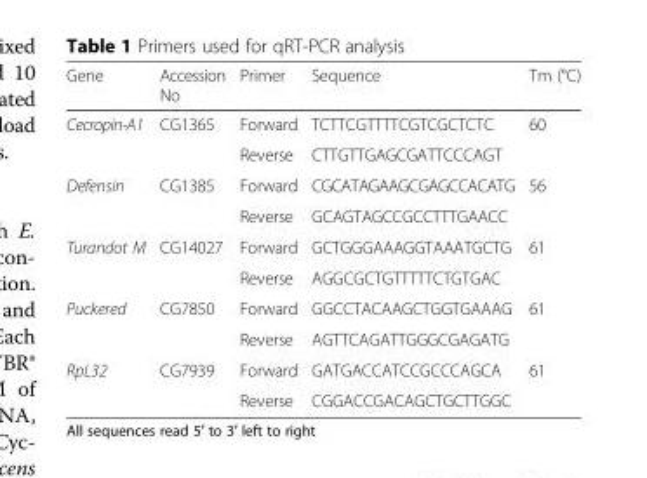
<table><thead><tr><td>Gene</td><td>Accession No</td><td>Primer</td><td>Sequence</td><td>Tm (°C)</td></tr></thead><tbody><tr><td rowspan="2">Cecropin-A1</td><td rowspan="2">CG1365</td><td>Forward</td><td>TCTTCGTTTTCGTCGCTCTC</td><td rowspan="2">60</td></tr><tr><td>Reverse</td><td>CTTGTTGAGCGATTCCCAGT</td></tr><tr><td rowspan="2">Defensin</td><td rowspan="2">CG1385</td><td>Forward</td><td>CGCATAGAAGCGAGCCACATG</td><td rowspan="2">56</td></tr><tr><td>Reverse</td><td>GCAGTAGCCGCCTTTGAACC</td></tr><tr><td rowspan="2">Turandot M</td><td rowspan="2">CG14027</td><td>Forward</td><td>GCTGGGAAAGGTAAATGCTG</td><td rowspan="2">61</td></tr><tr><td>Reverse</td><td>AGGCGCTGTTTTTCTGTGAC</td></tr><tr><td rowspan="2">Puckered</td><td rowspan="2">CG7850</td><td>Forward</td><td>GGCCTACAAGCTGGTGAAAG</td><td rowspan="2">61</td></tr><tr><td>Reverse</td><td>AGTTCAGATTGGGCGAGATG</td></tr><tr><td rowspan="2">RpL32</td><td rowspan="2">CG7939</td><td>Forward</td><td>GATGACCATCCGCCCAGCA</td><td rowspan="2">61</td></tr><tr><td>Reverse</td><td>CGGACCGACAGCTGCTTGGC</td></tr></tbody></table>